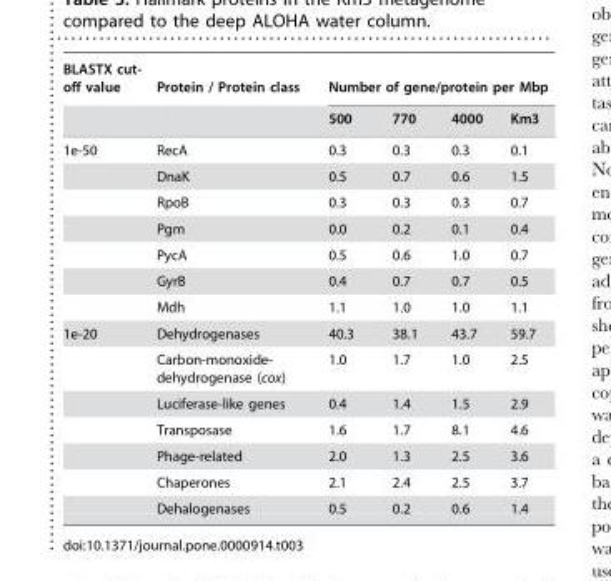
<table><thead><tr><td rowspan="2">BLASTX cut- off value</td><td rowspan="2">Protein / Protein class</td><td colspan="4">Number of gene/protein per Mbp</td></tr><tr><td>500</td><td>770</td><td>4000</td><td>Km3</td></tr></thead><tbody><tr><td rowspan="7">1e-50</td><td>RecA</td><td>0.3</td><td>0.3</td><td>0.3</td><td>0.1</td></tr><tr><td>DnaK</td><td>0.5</td><td>0.7</td><td>0.6</td><td>1.5</td></tr><tr><td>RpoB</td><td>0.3</td><td>0.3</td><td>0.3</td><td>0.7</td></tr><tr><td>Pgm</td><td>0.0</td><td>0.2</td><td>0.1</td><td>0.4</td></tr><tr><td>PycA</td><td>0.5</td><td>0.6</td><td>1.0</td><td>0.7</td></tr><tr><td>GyrB</td><td>0.4</td><td>0.7</td><td>0.7</td><td>0.5</td></tr><tr><td>Mdh</td><td>1.1</td><td>1.0</td><td>1.0</td><td>1.1</td></tr><tr><td rowspan="7">1e-20</td><td>Dehydrogenases</td><td>40.3</td><td>38.1</td><td>43.7</td><td>59.7</td></tr><tr><td>Carbon-monoxide- dehydrogenase (cox)</td><td>1.0</td><td>1.7</td><td>1.0</td><td>2.5</td></tr><tr><td>Luciferase-like genes</td><td>0.4</td><td>1.4</td><td>1.5</td><td>2.9</td></tr><tr><td>Transposase</td><td>1.6</td><td>1.7</td><td>8.1</td><td>4.6</td></tr><tr><td>Phage-related</td><td>2.0</td><td>1.3</td><td>2.5</td><td>3.6</td></tr><tr><td>Chaperones</td><td>2.1</td><td>2.4</td><td>2.5</td><td>3.7</td></tr><tr><td>Dehalogenases</td><td>0.5</td><td>0.2</td><td>0.6</td><td>1.4</td></tr></tbody></table>